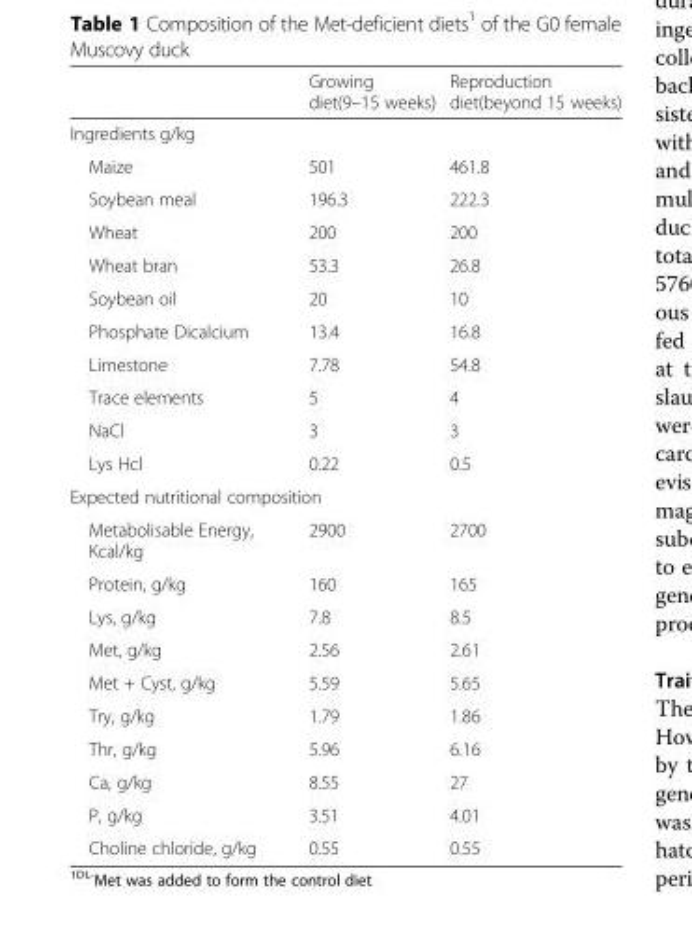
<table><thead><tr><td></td><td>Growing diet(9–15 weeks)</td><td>Reproduction diet(beyond 15 weeks)</td></tr></thead><tbody><tr><td colspan="3">Ingredients g/kg</td></tr><tr><td>Maize</td><td>501</td><td>461.8</td></tr><tr><td>Soybean meal</td><td>196.3</td><td>222.3</td></tr><tr><td>Wheat</td><td>200</td><td>200</td></tr><tr><td>Wheat bran</td><td>53.3</td><td>26.8</td></tr><tr><td>Soybean oil</td><td>20</td><td>10</td></tr><tr><td>Phosphate Dicalcium</td><td>13.4</td><td>16.8</td></tr><tr><td>Limestone</td><td>7.78</td><td>54.8</td></tr><tr><td>Trace elements</td><td>5</td><td>4</td></tr><tr><td>NaCl</td><td>3</td><td>3</td></tr><tr><td>Lys Hcl</td><td>0.22</td><td>0.5</td></tr><tr><td colspan="3">Expected nutritional composition</td></tr><tr><td>Metabolisable Energy, Kcal/kg</td><td>2900</td><td>2700</td></tr><tr><td>Protein, g/kg</td><td>160</td><td>165</td></tr><tr><td>Lys, g/kg</td><td>7.8</td><td>8.5</td></tr><tr><td>Met, g/kg</td><td>2.56</td><td>2.61</td></tr><tr><td>Met + Cyst, g/kg</td><td>5.59</td><td>5.65</td></tr><tr><td>Try, g/kg</td><td>1.79</td><td>1.86</td></tr><tr><td>Thr, g/kg</td><td>5.96</td><td>6.16</td></tr><tr><td>Ca, g/kg</td><td>8.55</td><td>27</td></tr><tr><td>P, g/kg</td><td>3.51</td><td>4.01</td></tr><tr><td>Choline chloride, g/kg</td><td>0.55</td><td>0.55</td></tr></tbody></table>